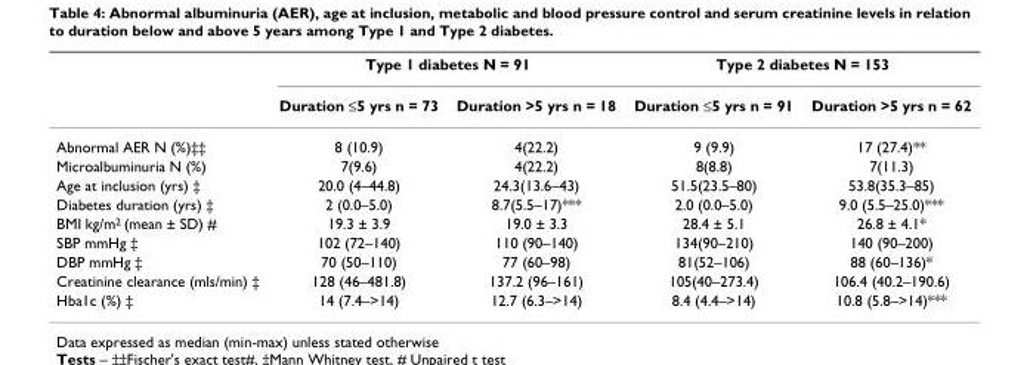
<table><thead><tr><td rowspan="2"></td><td colspan="2">Type 1 diabetes N = 91</td><td colspan="2">Type 2 diabetes N = 153</td></tr><tr><td>Duration ≤5 yrs n = 73</td><td>Duration &gt;5 yrs n = 18</td><td>Duration ≤5 yrs n = 91</td><td>Duration &gt;5 yrs n = 62</td></tr></thead><tbody><tr><td>Abnormal AER N (%)‡‡</td><td>8 (10.9)</td><td>4(22.2)</td><td>9 (9.9)</td><td>17 (27.4)**</td></tr><tr><td>Microalbuminuria N (%)</td><td>7(9.6)</td><td>4(22.2)</td><td>8(8.8)</td><td>7(11.3)</td></tr><tr><td>Age at inclusion (yrs) ‡</td><td>20.0 (4–44.8)</td><td>24.3(13.6–43)</td><td>51.5(23.5–80)</td><td>53.8(35.3–85)</td></tr><tr><td>Diabetes duration (yrs) ‡</td><td>2 (0.0–5.0)</td><td>8.7(5.5–17)***</td><td>2.0 (0.0–5.0)</td><td>9.0 (5.5–25.0)***</td></tr><tr><td>BMI kg/m<sup>2</sup> (mean ± SD) #</td><td>19.3 ± 3.9</td><td>19.0 ± 3.3</td><td>28.4 ± 5.1</td><td>26.8 ± 4.1*</td></tr><tr><td>SBP mmHg ‡</td><td>102 (72–140)</td><td>110 (90–140)</td><td>134(90–210)</td><td>140 (90–200)</td></tr><tr><td>DBP mmHg ‡</td><td>70 (50–110)</td><td>77 (60–98)</td><td>81(52–106)</td><td>88 (60–136)*</td></tr><tr><td>Creatinine clearance (mls/min) ‡</td><td>128 (46–481.8)</td><td>137.2 (96–161)</td><td>105(40–273.4)</td><td>106.4 (40.2–190.6)</td></tr><tr><td>Hba1c (%) ‡</td><td>14 (7.4–&gt;14)</td><td>12.7 (6.3–&gt;14)</td><td>8.4 (4.4–&gt;14)</td><td>10.8 (5.8–&gt;14)***</td></tr></tbody></table>